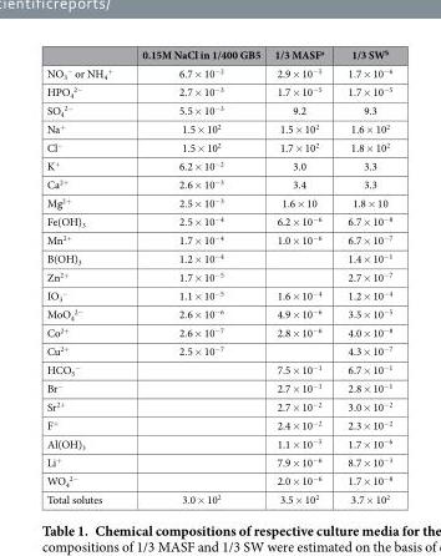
<table><thead><tr><td></td><td>0.15M NaCl in 1/400 GB5</td><td>1/3 MASF<sup>a</sup></td><td>1/3 SW<sup>b</sup></td></tr></thead><tbody><tr><td>NO<sub>3</sub> <sup>−</sup> or NH<sub>4</sub> <sup>+</sup></td><td>6.7 × 10<sup>−2</sup></td><td>2.9 × 10<sup>−5</sup></td><td>1.7 × 10<sup>−6</sup></td></tr><tr><td>HPO<sub>4</sub> <sup>2−</sup></td><td>2.7 × 10<sup>−3</sup></td><td>1.7 × 10<sup>−5</sup></td><td>1.7 × 10<sup>−5</sup></td></tr><tr><td>SO<sub>4</sub> <sup>2−</sup></td><td>5.5 × 10<sup>−3</sup></td><td>9.2</td><td>9.3</td></tr><tr><td>Na<sup>+</sup></td><td>1.5 × 10<sup>2</sup></td><td>1.5 × 10<sup>2</sup></td><td>1.6 × 10<sup>2</sup></td></tr><tr><td>Cl<sup>−</sup></td><td>1.5 × 10<sup>2</sup></td><td>1.7 × 10<sup>2</sup></td><td>1.8 × 10<sup>2</sup></td></tr><tr><td>K<sup>+</sup></td><td>6.2 × 10<sup>−2</sup></td><td>3.0</td><td>3.3</td></tr><tr><td>Ca<sup>2+</sup></td><td>2.6 × 10<sup>−3</sup></td><td>3.4</td><td>3.3</td></tr><tr><td>Mg<sup>2+</sup></td><td>2.5 × 10<sup>−3</sup></td><td>1.6 × 10</td><td>1.8 × 10</td></tr><tr><td>Fe(OH)<sub>3</sub></td><td>2.5 × 10<sup>−4</sup></td><td>6.2 × 10<sup>−6</sup></td><td>6.7 × 10<sup>−8</sup></td></tr><tr><td>Mn<sup>2+</sup></td><td>1.7 × 10<sup>−4</sup></td><td>1.0 × 10<sup>−6</sup></td><td>6.7 × 10<sup>−7</sup></td></tr><tr><td>B(OH)<sub>3</sub></td><td>1.2 × 10<sup>−4</sup></td><td></td><td>1.4 × 10<sup>−1</sup></td></tr><tr><td>Zn<sup>2+</sup></td><td>1.7 × 10<sup>−5</sup></td><td></td><td>2.7 × 10<sup>−7</sup></td></tr><tr><td>IO<sub>3</sub> <sup>−</sup></td><td>1.1 × 10<sup>−5</sup></td><td>1.6 × 10<sup>−4</sup></td><td>1.2 × 10<sup>−4</sup></td></tr><tr><td>MoO<sub>4</sub> <sup>2−</sup></td><td>2.6 × 10<sup>−6</sup></td><td>4.9 × 10<sup>−6</sup></td><td>3.5 × 10<sup>−5</sup></td></tr><tr><td>Co<sup>2+</sup></td><td>2.6 × 10<sup>−7</sup></td><td>2.8 × 10<sup>−6</sup></td><td>4.0 × 10<sup>−8</sup></td></tr><tr><td>Cu<sup>2+</sup></td><td>2.5 × 10<sup>−7</sup></td><td></td><td>4.3 × 10<sup>−7</sup></td></tr><tr><td>HCO<sub>3</sub> <sup>−</sup></td><td></td><td>7.5 × 10<sup>−1</sup></td><td>6.7 × 10<sup>−1</sup></td></tr><tr><td>Br<sup>−</sup></td><td></td><td>2.7 × 10<sup>−1</sup></td><td>2.8 × 10<sup>−1</sup></td></tr><tr><td>Sr<sup>2+</sup></td><td></td><td>2.7 × 10<sup>−2</sup></td><td>3.0 × 10<sup>−2</sup></td></tr><tr><td>F<sup>+</sup></td><td></td><td>2.4 × 10<sup>−2</sup></td><td>2.3 × 10<sup>−2</sup></td></tr><tr><td>Al(OH)<sub>3</sub></td><td></td><td>1.1 × 10<sup>−5</sup></td><td>1.7 × 10<sup>−6</sup></td></tr><tr><td>Li<sup>+</sup></td><td></td><td>7.9 × 10<sup>−6</sup></td><td>8.7 × 10<sup>−3</sup></td></tr><tr><td>WO<sub>4</sub> <sup>2−</sup></td><td></td><td>2.0 × 10<sup>−6</sup></td><td>1.7 × 10<sup>−8</sup></td></tr><tr><td>Total solutes</td><td>3.0 × 10<sup>2</sup></td><td>3.5 × 10<sup>2</sup></td><td>3.7 × 10<sup>2</sup></td></tr></tbody></table>